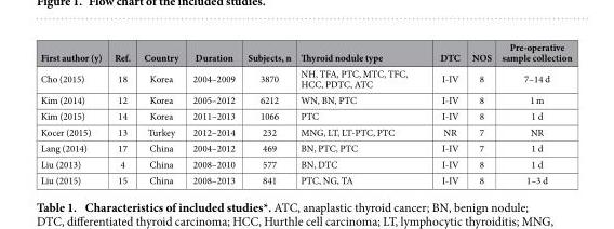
<table><thead><tr><td>First author (y)</td><td>Ref.</td><td>Country</td><td>Duration</td><td>Subjects, n</td><td>Thyroid nodule type</td><td>DTC</td><td>NOS</td><td>Pre-operative sample collection</td></tr></thead><tbody><tr><td>Cho (2015)</td><td>18</td><td>Korea</td><td>2004–2009</td><td>3870</td><td>NH, TFA, PTC, MTC, TFC, HCC, PDTC, ATC</td><td>I-IV</td><td>8</td><td>7–14 d</td></tr><tr><td>Kim (2014)</td><td>12</td><td>Korea</td><td>2005–2012</td><td>6212</td><td>WN, BN, PTC</td><td>I-IV</td><td>8</td><td>1 m</td></tr><tr><td>Kim (2015)</td><td>14</td><td>Korea</td><td>2011–2013</td><td>1066</td><td>PTC</td><td>I-IV</td><td>8</td><td>1 d</td></tr><tr><td>Kocer (2015)</td><td>13</td><td>Turkey</td><td>2012–2014</td><td>232</td><td>MNG, LT, LT-PTC, PTC</td><td>NR</td><td>7</td><td>NR</td></tr><tr><td>Lang (2014)</td><td>17</td><td>China</td><td>2004–2012</td><td>469</td><td>BN, PTC, PTC</td><td>I-IV</td><td>7</td><td>1 d</td></tr><tr><td>Liu (2013)</td><td>4</td><td>China</td><td>2008–2010</td><td>577</td><td>BN, DTC</td><td>I-IV</td><td>8</td><td>1 d</td></tr><tr><td>Liu (2015)</td><td>15</td><td>China</td><td>2008–2013</td><td>841</td><td>PTC, NG, TA</td><td>I-IV</td><td>8</td><td>1–3 d</td></tr></tbody></table>